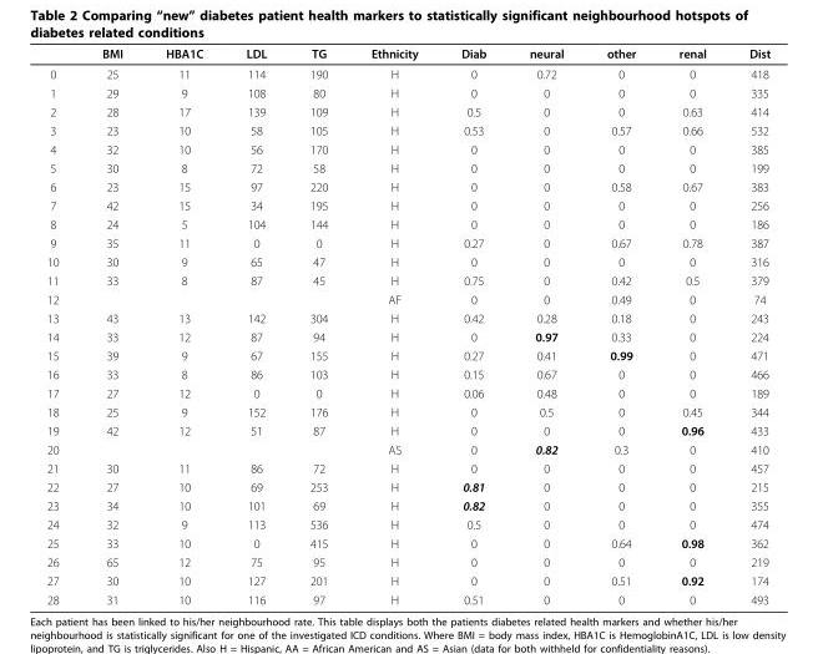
<table><thead><tr><td></td><td>BMI</td><td>HBA1C</td><td>LDL</td><td>TG</td><td>Ethnicity</td><td>Diab</td><td>neural</td><td>other</td><td>renal</td><td>Dist</td></tr></thead><tbody><tr><td>0</td><td>25</td><td>11</td><td>114</td><td>190</td><td>H</td><td>0</td><td>0.72</td><td>0</td><td>0</td><td>418</td></tr><tr><td>1</td><td>29</td><td>9</td><td>108</td><td>80</td><td>H</td><td>0</td><td>0</td><td>0</td><td>0</td><td>335</td></tr><tr><td>2</td><td>28</td><td>17</td><td>139</td><td>109</td><td>H</td><td>0.5</td><td>0</td><td>0</td><td>0.63</td><td>414</td></tr><tr><td>3</td><td>23</td><td>10</td><td>58</td><td>105</td><td>H</td><td>0.53</td><td>0</td><td>0.57</td><td>0.66</td><td>532</td></tr><tr><td>4</td><td>32</td><td>10</td><td>56</td><td>170</td><td>H</td><td>0</td><td>0</td><td>0</td><td>0</td><td>385</td></tr><tr><td>5</td><td>30</td><td>8</td><td>72</td><td>58</td><td>H</td><td>0</td><td>0</td><td>0</td><td>0</td><td>199</td></tr><tr><td>6</td><td>23</td><td>15</td><td>97</td><td>220</td><td>H</td><td>0</td><td>0</td><td>0.58</td><td>0.67</td><td>383</td></tr><tr><td>7</td><td>42</td><td>15</td><td>34</td><td>195</td><td>H</td><td>0</td><td>0</td><td>0</td><td>0</td><td>256</td></tr><tr><td>8</td><td>24</td><td>5</td><td>104</td><td>144</td><td>H</td><td>0</td><td>0</td><td>0</td><td>0</td><td>186</td></tr><tr><td>9</td><td>35</td><td>11</td><td>0</td><td>0</td><td>H</td><td>0.27</td><td>0</td><td>0.67</td><td>0.78</td><td>387</td></tr><tr><td>10</td><td>30</td><td>9</td><td>65</td><td>47</td><td>H</td><td>0</td><td>0</td><td>0</td><td>0</td><td>316</td></tr><tr><td>11</td><td>33</td><td>8</td><td>87</td><td>45</td><td>H</td><td>0.75</td><td>0</td><td>0.42</td><td>0.5</td><td>379</td></tr><tr><td>12</td><td></td><td></td><td></td><td></td><td>AF</td><td>0</td><td>0</td><td>0.49</td><td>0</td><td>74</td></tr><tr><td>13</td><td>43</td><td>13</td><td>142</td><td>304</td><td>H</td><td>0.42</td><td>0.28</td><td>0.18</td><td>0</td><td>243</td></tr><tr><td>14</td><td>33</td><td>12</td><td>87</td><td>94</td><td>H</td><td>0</td><td>0.97</td><td>0.33</td><td>0</td><td>224</td></tr><tr><td>15</td><td>39</td><td>9</td><td>67</td><td>155</td><td>H</td><td>0.27</td><td>0.41</td><td>0.99</td><td>0</td><td>471</td></tr><tr><td>16</td><td>33</td><td>8</td><td>86</td><td>103</td><td>H</td><td>0.15</td><td>0.67</td><td>0</td><td>0</td><td>466</td></tr><tr><td>17</td><td>27</td><td>12</td><td>0</td><td>0</td><td>H</td><td>0.06</td><td>0.48</td><td>0</td><td>0</td><td>189</td></tr><tr><td>18</td><td>25</td><td>9</td><td>152</td><td>176</td><td>H</td><td>0</td><td>0.5</td><td>0</td><td>0.45</td><td>344</td></tr><tr><td>19</td><td>42</td><td>12</td><td>51</td><td>87</td><td>H</td><td>0</td><td>0</td><td>0</td><td>0.96</td><td>433</td></tr><tr><td>20</td><td></td><td></td><td></td><td></td><td>AS</td><td>0</td><td>0.82</td><td>0.3</td><td>0</td><td>410</td></tr><tr><td>21</td><td>30</td><td>11</td><td>86</td><td>72</td><td>H</td><td>0</td><td>0</td><td>0</td><td>0</td><td>457</td></tr><tr><td>22</td><td>27</td><td>10</td><td>69</td><td>253</td><td>H</td><td>0.81</td><td>0</td><td>0</td><td>0</td><td>215</td></tr><tr><td>23</td><td>34</td><td>10</td><td>101</td><td>69</td><td>H</td><td>0.82</td><td>0</td><td>0</td><td>0</td><td>355</td></tr><tr><td>24</td><td>32</td><td>9</td><td>113</td><td>536</td><td>H</td><td>0.5</td><td>0</td><td>0</td><td>0</td><td>474</td></tr><tr><td>25</td><td>33</td><td>10</td><td>0</td><td>415</td><td>H</td><td>0</td><td>0</td><td>0.64</td><td>0.98</td><td>362</td></tr><tr><td>26</td><td>65</td><td>12</td><td>75</td><td>95</td><td>H</td><td>0</td><td>0</td><td>0</td><td>0</td><td>219</td></tr><tr><td>27</td><td>30</td><td>10</td><td>127</td><td>201</td><td>H</td><td>0</td><td>0</td><td>0.51</td><td>0.92</td><td>174</td></tr><tr><td>28</td><td>31</td><td>10</td><td>116</td><td>97</td><td>H</td><td>0.51</td><td>0</td><td>0</td><td>0</td><td>493</td></tr></tbody></table>